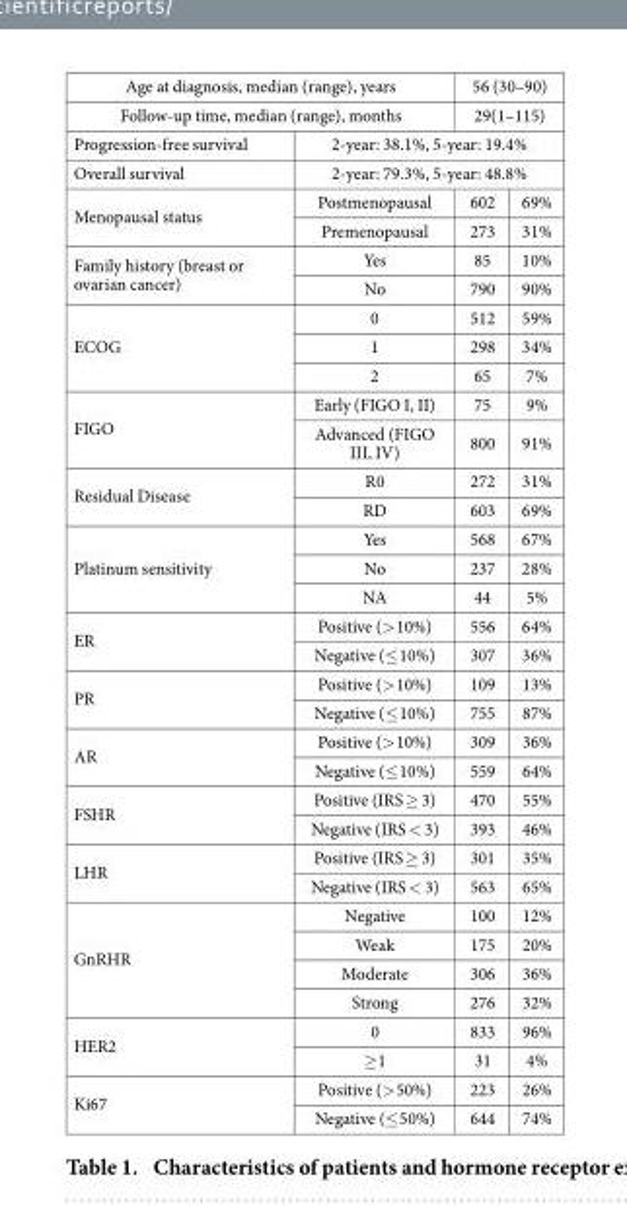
<table><tbody><tr><td colspan="2">Age at diagnosis, median (range), years</td><td colspan="2">56 (30–90)</td></tr><tr><td colspan="2">Follow-up time, median (range), months</td><td colspan="2">29(1–115)</td></tr><tr><td>Progression-free survival</td><td colspan="3">2-year: 38.1%, 5-year: 19.4%</td></tr><tr><td>Overall survival</td><td colspan="3">2-year: 79.3%, 5-year: 48.8%</td></tr><tr><td rowspan="2">Menopausal status</td><td>Postmenopausal</td><td>602</td><td>69%</td></tr><tr><td>Premenopausal</td><td>273</td><td>31%</td></tr><tr><td rowspan="2">Family history (breast or ovarian cancer)</td><td>Yes</td><td>85</td><td>10%</td></tr><tr><td>No</td><td>790</td><td>90%</td></tr><tr><td rowspan="3">ECOG</td><td>0</td><td>512</td><td>59%</td></tr><tr><td>1</td><td>298</td><td>34%</td></tr><tr><td>2</td><td>65</td><td>7%</td></tr><tr><td rowspan="2">FIGO</td><td>Early (FIGO I, II)</td><td>75</td><td>9%</td></tr><tr><td>Advanced (FIGO III, IV)</td><td>800</td><td>91%</td></tr><tr><td rowspan="2">Residual Disease</td><td>R0</td><td>272</td><td>31%</td></tr><tr><td>RD</td><td>603</td><td>69%</td></tr><tr><td rowspan="3">Platinum sensitivity</td><td>Yes</td><td>568</td><td>67%</td></tr><tr><td>No</td><td>237</td><td>28%</td></tr><tr><td>NA</td><td>44</td><td>5%</td></tr><tr><td rowspan="2">ER</td><td>Positive (&gt; 10%)</td><td>556</td><td>64%</td></tr><tr><td>Negative (≤ 10%)</td><td>307</td><td>36%</td></tr><tr><td rowspan="2">PR</td><td>Positive (&gt; 10%)</td><td>109</td><td>13%</td></tr><tr><td>Negative (≤ 10%)</td><td>755</td><td>87%</td></tr><tr><td rowspan="2">AR</td><td>Positive (&gt; 10%)</td><td>309</td><td>36%</td></tr><tr><td>Negative (≤ 10%)</td><td>559</td><td>64%</td></tr><tr><td rowspan="2">FSHR</td><td>Positive (IRS ≥ 3)</td><td>470</td><td>55%</td></tr><tr><td>Negative (IRS &lt; 3)</td><td>393</td><td>46%</td></tr><tr><td rowspan="2">LHR</td><td>Positive (IRS ≥ 3)</td><td>301</td><td>35%</td></tr><tr><td>Negative (IRS &lt; 3)</td><td>563</td><td>65%</td></tr><tr><td rowspan="4">GnRHR</td><td>Negative</td><td>100</td><td>12%</td></tr><tr><td>Weak</td><td>175</td><td>20%</td></tr><tr><td>Moderate</td><td>306</td><td>36%</td></tr><tr><td>Strong</td><td>276</td><td>32%</td></tr><tr><td rowspan="2">HER2</td><td>0</td><td>833</td><td>96%</td></tr><tr><td>≥ 1</td><td>31</td><td>4%</td></tr><tr><td rowspan="2">Ki67</td><td>Positive (&gt; 50%)</td><td>223</td><td>26%</td></tr><tr><td>Negative (≤ 50%)</td><td>644</td><td>74%</td></tr></tbody></table>